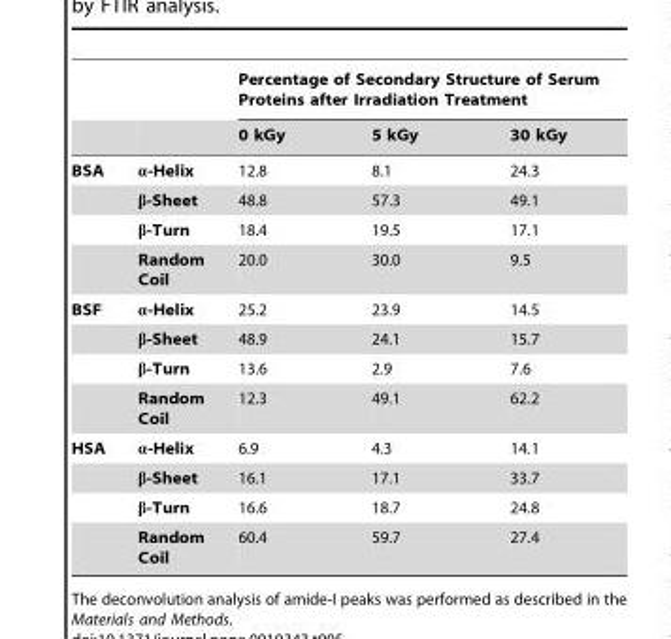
<table><thead><tr><td rowspan="2"></td><td rowspan="2"></td><td colspan="3">Percentage of Secondary Structure of Serum Proteins after Irradiation Treatment</td></tr><tr><td>0 kGy</td><td>5 kGy</td><td>30 kGy</td></tr></thead><tbody><tr><td rowspan="4">BSA</td><td>α-Helix</td><td>12.8</td><td>8.1</td><td>24.3</td></tr><tr><td>β-Sheet</td><td>48.8</td><td>57.3</td><td>49.1</td></tr><tr><td>β-Turn</td><td>18.4</td><td>19.5</td><td>17.1</td></tr><tr><td>Random Coil</td><td>20.0</td><td>30.0</td><td>9.5</td></tr><tr><td rowspan="4">BSF</td><td>α-Helix</td><td>25.2</td><td>23.9</td><td>14.5</td></tr><tr><td>β-Sheet</td><td>48.9</td><td>24.1</td><td>15.7</td></tr><tr><td>β-Turn</td><td>13.6</td><td>2.9</td><td>7.6</td></tr><tr><td>Random Coil</td><td>12.3</td><td>49.1</td><td>62.2</td></tr><tr><td rowspan="4">HSA</td><td>α-Helix</td><td>6.9</td><td>4.3</td><td>14.1</td></tr><tr><td>β-Sheet</td><td>16.1</td><td>17.1</td><td>33.7</td></tr><tr><td>β-Turn</td><td>16.6</td><td>18.7</td><td>24.8</td></tr><tr><td>Random Coil</td><td>60.4</td><td>59.7</td><td>27.4</td></tr></tbody></table>